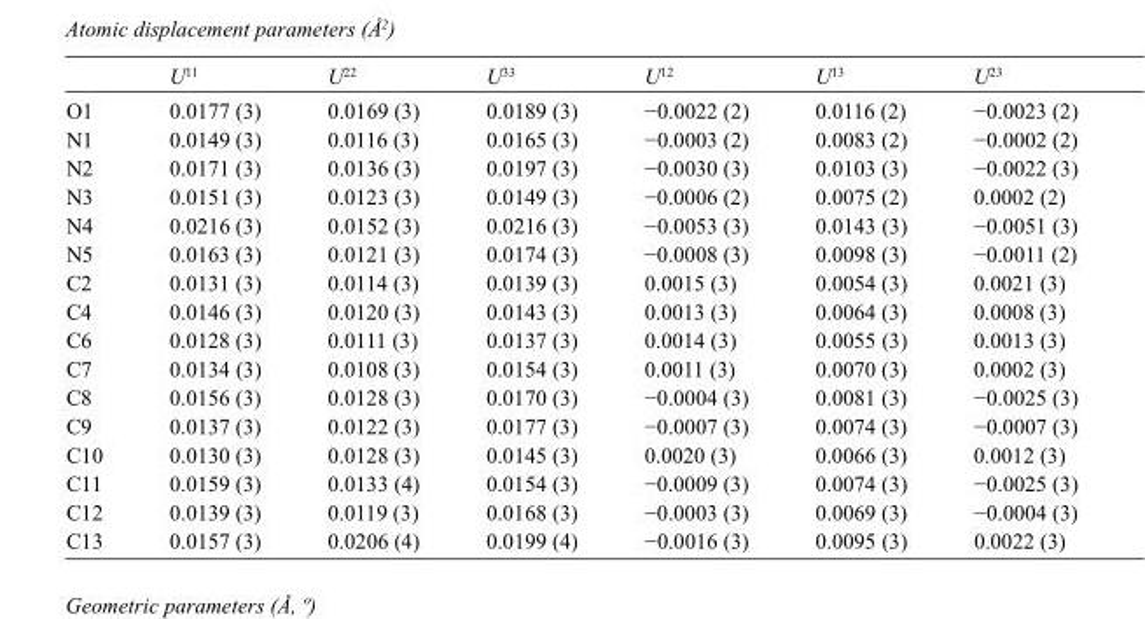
<table><thead><tr><td></td><td>U<sup>11</sup></td><td>U<sup>22</sup></td><td>U<sup>33</sup></td><td>U<sup>12</sup></td><td>U<sup>13</sup></td><td>U<sup>23</sup></td></tr></thead><tbody><tr><td>O1</td><td>0.0177 (3)</td><td>0.0169 (3)</td><td>0.0189 (3)</td><td>−0.0022 (2)</td><td>0.0116 (2)</td><td>−0.0023 (2)</td></tr><tr><td>N1</td><td>0.0149 (3)</td><td>0.0116 (3)</td><td>0.0165 (3)</td><td>−0.0003 (2)</td><td>0.0083 (2)</td><td>−0.0002 (2)</td></tr><tr><td>N2</td><td>0.0171 (3)</td><td>0.0136 (3)</td><td>0.0197 (3)</td><td>−0.0030 (3)</td><td>0.0103 (3)</td><td>−0.0022 (3)</td></tr><tr><td>N3</td><td>0.0151 (3)</td><td>0.0123 (3)</td><td>0.0149 (3)</td><td>−0.0006 (2)</td><td>0.0075 (2)</td><td>0.0002 (2)</td></tr><tr><td>N4</td><td>0.0216 (3)</td><td>0.0152 (3)</td><td>0.0216 (3)</td><td>−0.0053 (3)</td><td>0.0143 (3)</td><td>−0.0051 (3)</td></tr><tr><td>N5</td><td>0.0163 (3)</td><td>0.0121 (3)</td><td>0.0174 (3)</td><td>−0.0008 (3)</td><td>0.0098 (3)</td><td>−0.0011 (2)</td></tr><tr><td>C2</td><td>0.0131 (3)</td><td>0.0114 (3)</td><td>0.0139 (3)</td><td>0.0015 (3)</td><td>0.0054 (3)</td><td>0.0021 (3)</td></tr><tr><td>C4</td><td>0.0146 (3)</td><td>0.0120 (3)</td><td>0.0143 (3)</td><td>0.0013 (3)</td><td>0.0064 (3)</td><td>0.0008 (3)</td></tr><tr><td>C6</td><td>0.0128 (3)</td><td>0.0111 (3)</td><td>0.0137 (3)</td><td>0.0014 (3)</td><td>0.0055 (3)</td><td>0.0013 (3)</td></tr><tr><td>C7</td><td>0.0134 (3)</td><td>0.0108 (3)</td><td>0.0154 (3)</td><td>0.0011 (3)</td><td>0.0070 (3)</td><td>0.0002 (3)</td></tr><tr><td>C8</td><td>0.0156 (3)</td><td>0.0128 (3)</td><td>0.0170 (3)</td><td>−0.0004 (3)</td><td>0.0081 (3)</td><td>−0.0025 (3)</td></tr><tr><td>C9</td><td>0.0137 (3)</td><td>0.0122 (3)</td><td>0.0177 (3)</td><td>−0.0007 (3)</td><td>0.0074 (3)</td><td>−0.0007 (3)</td></tr><tr><td>C10</td><td>0.0130 (3)</td><td>0.0128 (3)</td><td>0.0145 (3)</td><td>0.0020 (3)</td><td>0.0066 (3)</td><td>0.0012 (3)</td></tr><tr><td>C11</td><td>0.0159 (3)</td><td>0.0133 (4)</td><td>0.0154 (3)</td><td>−0.0009 (3)</td><td>0.0074 (3)</td><td>−0.0025 (3)</td></tr><tr><td>C12</td><td>0.0139 (3)</td><td>0.0119 (3)</td><td>0.0168 (3)</td><td>−0.0003 (3)</td><td>0.0069 (3)</td><td>−0.0004 (3)</td></tr><tr><td>C13</td><td>0.0157 (3)</td><td>0.0206 (4)</td><td>0.0199 (4)</td><td>−0.0016 (3)</td><td>0.0095 (3)</td><td>0.0022 (3)</td></tr></tbody></table>